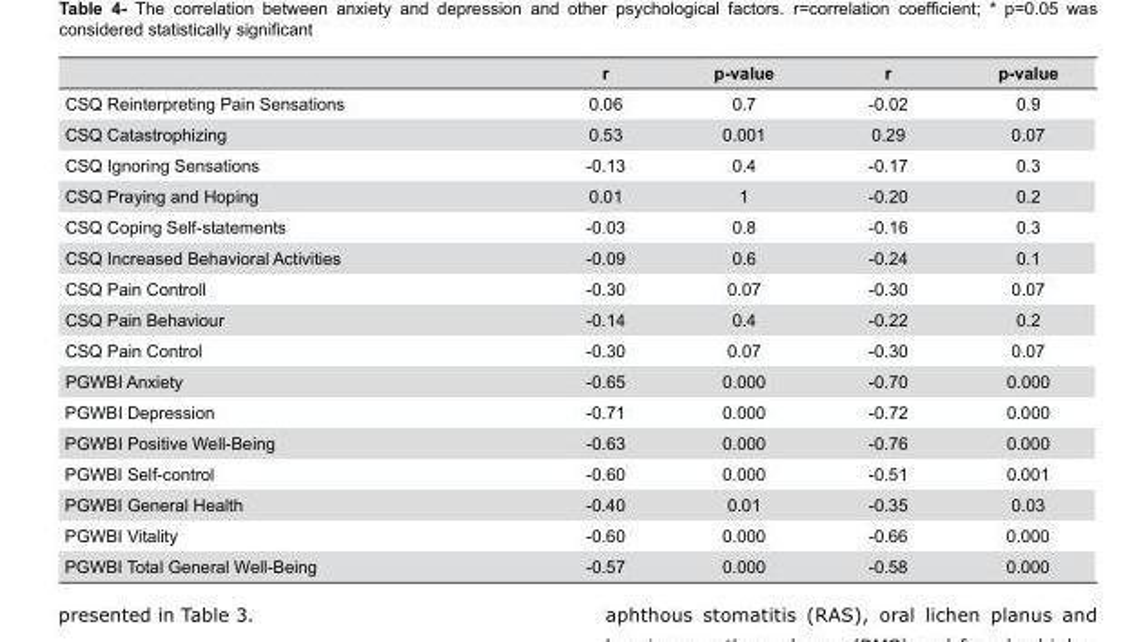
<table><thead><tr><td></td><td>r</td><td>p-value</td><td>r</td><td>p-value</td></tr></thead><tbody><tr><td>CSQ Reinterpreting Pain Sensations</td><td>0.06</td><td>0.7</td><td>-0.02</td><td>0.9</td></tr><tr><td>CSQ Catastrophizing</td><td>0.53</td><td>0.001</td><td>0.29</td><td>0.07</td></tr><tr><td>CSQ Ignoring Sensations</td><td>-0.13</td><td>0.4</td><td>-0.17</td><td>0.3</td></tr><tr><td>CSQ Praying and Hoping</td><td>0.01</td><td>1</td><td>-0.20</td><td>0.2</td></tr><tr><td>CSQ Coping Self-statements</td><td>-0.03</td><td>0.8</td><td>-0.16</td><td>0.3</td></tr><tr><td>CSQ Increased Behavioral Activities</td><td>-0.09</td><td>0.6</td><td>-0.24</td><td>0.1</td></tr><tr><td>CSQ Pain Controll</td><td>-0.30</td><td>0.07</td><td>-0.30</td><td>0.07</td></tr><tr><td>CSQ Pain Behaviour</td><td>-0.14</td><td>0.4</td><td>-0.22</td><td>0.2</td></tr><tr><td>CSQ Pain Control</td><td>-0.30</td><td>0.07</td><td>-0.30</td><td>0.07</td></tr><tr><td>PGWBI Anxiety</td><td>-0.65</td><td>0.000</td><td>-0.70</td><td>0.000</td></tr><tr><td>PGWBI Depression</td><td>-0.71</td><td>0.000</td><td>-0.72</td><td>0.000</td></tr><tr><td>PGWBI Positive Well-Being</td><td>-0.63</td><td>0.000</td><td>-0.76</td><td>0.000</td></tr><tr><td>PGWBI Self-control</td><td>-0.60</td><td>0.000</td><td>-0.51</td><td>0.001</td></tr><tr><td>PGWBI General Health</td><td>-0.40</td><td>0.01</td><td>-0.35</td><td>0.03</td></tr><tr><td>PGWBI Vitality</td><td>-0.60</td><td>0.000</td><td>-0.66</td><td>0.000</td></tr><tr><td>PGWBI Total General Well-Being</td><td>-0.57</td><td>0.000</td><td>-0.58</td><td>0.000</td></tr></tbody></table>